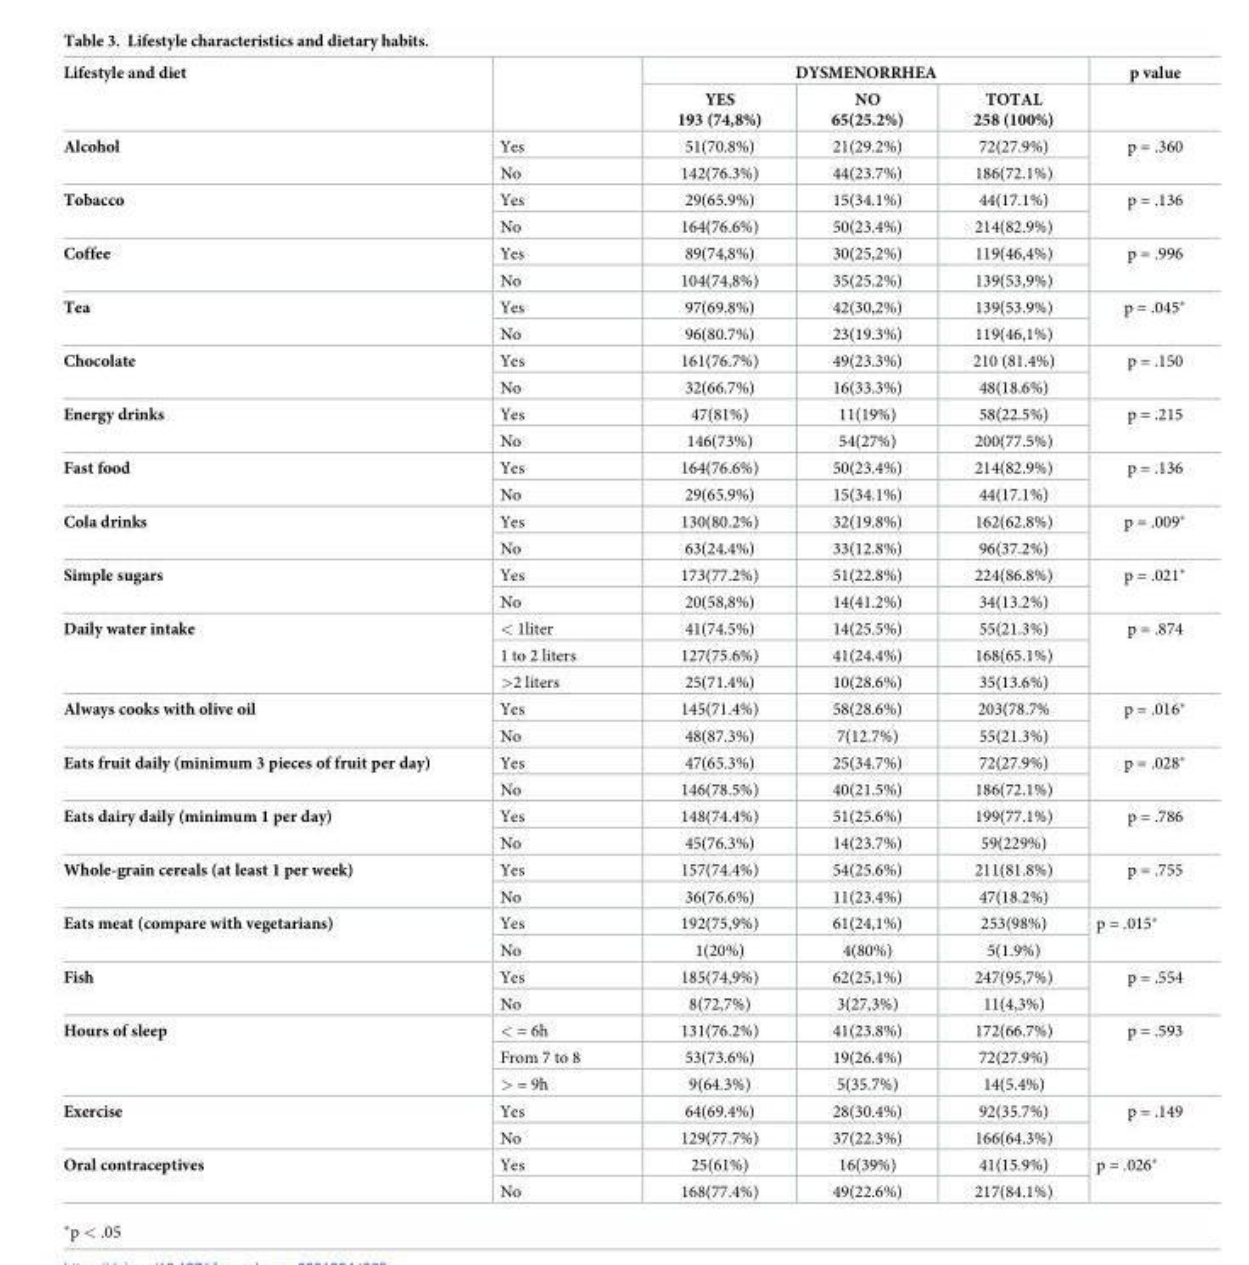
<table><thead><tr><td rowspan="2">Lifestyle and diet</td><td rowspan="2"></td><td colspan="3">DYSMENORRHEA</td><td rowspan="2">p value</td></tr><tr><td>YES 193 (74,8%)</td><td>NO 65(25.2%)</td><td>TOTAL 258 (100%)</td></tr></thead><tbody><tr><td rowspan="2">Alcohol</td><td>Yes</td><td>51(70.8%)</td><td>21(29.2%)</td><td>72(27.9%)</td><td rowspan="2">p = .360</td></tr><tr><td>No</td><td>142(76.3%)</td><td>44(23.7%)</td><td>186(72.1%)</td></tr><tr><td rowspan="2">Tobacco</td><td>Yes</td><td>29(65.9%)</td><td>15(34.1%)</td><td>44(17.1%)</td><td rowspan="2">p = .136</td></tr><tr><td>No</td><td>164(76.6%)</td><td>50(23.4%)</td><td>214(82.9%)</td></tr><tr><td rowspan="2">Coffee</td><td>Yes</td><td>89(74,8%)</td><td>30(25,2%)</td><td>119(46,4%)</td><td rowspan="2">p = .996</td></tr><tr><td>No</td><td>104(74,8%)</td><td>35(25.2%)</td><td>139(53,9%)</td></tr><tr><td rowspan="2">Tea</td><td>Yes</td><td>97(69.8%)</td><td>42(30,2%)</td><td>139(53.9%)</td><td rowspan="2">p = .045*</td></tr><tr><td>No</td><td>96(80.7%)</td><td>23(19.3%)</td><td>119(46,1%)</td></tr><tr><td rowspan="2">Chocolate</td><td>Yes</td><td>161(76.7%)</td><td>49(23.3%)</td><td>210 (81.4%)</td><td rowspan="2">p = .150</td></tr><tr><td>No</td><td>32(66.7%)</td><td>16(33.3%)</td><td>48(18.6%)</td></tr><tr><td rowspan="2">Energy drinks</td><td>Yes</td><td>47(81%)</td><td>11(19%)</td><td>58(22.5%)</td><td rowspan="2">p = .215</td></tr><tr><td>No</td><td>146(73%)</td><td>54(27%)</td><td>200(77.5%)</td></tr><tr><td rowspan="2">Fast food</td><td>Yes</td><td>164(76.6%)</td><td>50(23.4%)</td><td>214(82.9%)</td><td rowspan="2">p = .136</td></tr><tr><td>No</td><td>29(65.9%)</td><td>15(34.1%)</td><td>44(17.1%)</td></tr><tr><td rowspan="2">Cola drinks</td><td>Yes</td><td>130(80.2%)</td><td>32(19.8%)</td><td>162(62.8%)</td><td rowspan="2">p = .009*</td></tr><tr><td>No</td><td>63(24.4%)</td><td>33(12.8%)</td><td>96(37.2%)</td></tr><tr><td rowspan="2">Simple sugars</td><td>Yes</td><td>173(77.2%)</td><td>51(22.8%)</td><td>224(86.8%)</td><td rowspan="2">p = .021*</td></tr><tr><td>No</td><td>20(58,8%)</td><td>14(41.2%)</td><td>34(13.2%)</td></tr><tr><td rowspan="3">Daily water intake</td><td>&lt; 1liter</td><td>41(74.5%)</td><td>14(25.5%)</td><td>55(21.3%)</td><td rowspan="3">p = .874</td></tr><tr><td>1 to 2 liters</td><td>127(75.6%)</td><td>41(24.4%)</td><td>168(65.1%)</td></tr><tr><td>&gt;2 liters</td><td>25(71.4%)</td><td>10(28.6%)</td><td>35(13.6%)</td></tr><tr><td rowspan="2">Always cooks with olive oil</td><td>Yes</td><td>145(71.4%)</td><td>58(28.6%)</td><td>203(78.7%</td><td rowspan="2">p = .016*</td></tr><tr><td>No</td><td>48(87.3%)</td><td>7(12.7%)</td><td>55(21.3%)</td></tr><tr><td rowspan="2">Eats fruit daily (minimum 3 pieces of fruit per day)</td><td>Yes</td><td>47(65.3%)</td><td>25(34.7%)</td><td>72(27.9%)</td><td rowspan="2">p = .028*</td></tr><tr><td>No</td><td>146(78.5%)</td><td>40(21.5%)</td><td>186(72.1%)</td></tr><tr><td rowspan="2">Eats dairy daily (minimum 1 per day)</td><td>Yes</td><td>148(74.4%)</td><td>51(25.6%)</td><td>199(77.1%)</td><td rowspan="2">p = .786</td></tr><tr><td>No</td><td>45(76.3%)</td><td>14(23.7%)</td><td>59(229%)</td></tr><tr><td rowspan="2">Whole-grain cereals (at least 1 per week)</td><td>Yes</td><td>157(74.4%)</td><td>54(25.6%)</td><td>211(81.8%)</td><td rowspan="2">p = .755</td></tr><tr><td>No</td><td>36(76.6%)</td><td>11(23.4%)</td><td>47(18.2%)</td></tr><tr><td rowspan="2">Eats meat (compare with vegetarians)</td><td>Yes</td><td>192(75,9%)</td><td>61(24,1%)</td><td>253(98%)</td><td rowspan="2">p = .015*</td></tr><tr><td>No</td><td>1(20%)</td><td>4(80%)</td><td>5(1.9%)</td></tr><tr><td rowspan="2">Fish</td><td>Yes</td><td>185(74,9%)</td><td>62(25,1%)</td><td>247(95,7%)</td><td rowspan="2">p = .554</td></tr><tr><td>No</td><td>8(72,7%)</td><td>3(27,3%)</td><td>11(4,3%)</td></tr><tr><td rowspan="3">Hours of sleep</td><td>&lt; = 6h</td><td>131(76.2%)</td><td>41(23.8%)</td><td>172(66.7%)</td><td rowspan="3">p = .593</td></tr><tr><td>From 7 to 8</td><td>53(73.6%)</td><td>19(26.4%)</td><td>72(27.9%)</td></tr><tr><td>&gt; = 9h</td><td>9(64.3%)</td><td>5(35.7%)</td><td>14(5.4%)</td></tr><tr><td rowspan="2">Exercise</td><td>Yes</td><td>64(69.4%)</td><td>28(30.4%)</td><td>92(35.7%)</td><td rowspan="2">p = .149</td></tr><tr><td>No</td><td>129(77.7%)</td><td>37(22.3%)</td><td>166(64.3%)</td></tr><tr><td rowspan="2">Oral contraceptives</td><td>Yes</td><td>25(61%)</td><td>16(39%)</td><td>41(15.9%)</td><td rowspan="2">p = .026*</td></tr><tr><td>No</td><td>168(77.4%)</td><td>49(22.6%)</td><td>217(84.1%)</td></tr></tbody></table>